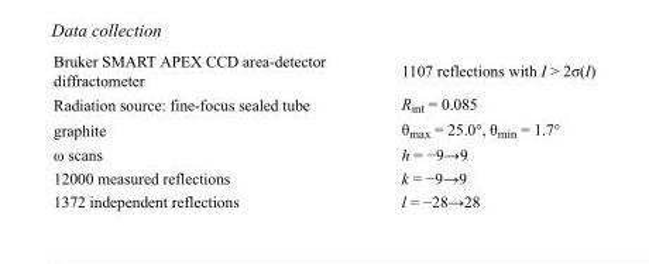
<table><tbody><tr><td>Bruker SMART APEX CCD area-detector diffractometer</td><td>1107 reflections with I &gt; 2σ(I)</td></tr><tr><td>Radiation source: fine-focus sealed tube</td><td>R<sub>int</sub> = 0.085</td></tr><tr><td>graphite</td><td>θ<sub>max</sub> = 25.0°, θ<sub>min</sub> = 1.7°</td></tr><tr><td>ω scans</td><td>h = −9→9</td></tr><tr><td>12000 measured reflections</td><td>k = −9→9</td></tr><tr><td>1372 independent reflections</td><td>l = −28→28</td></tr></tbody></table>